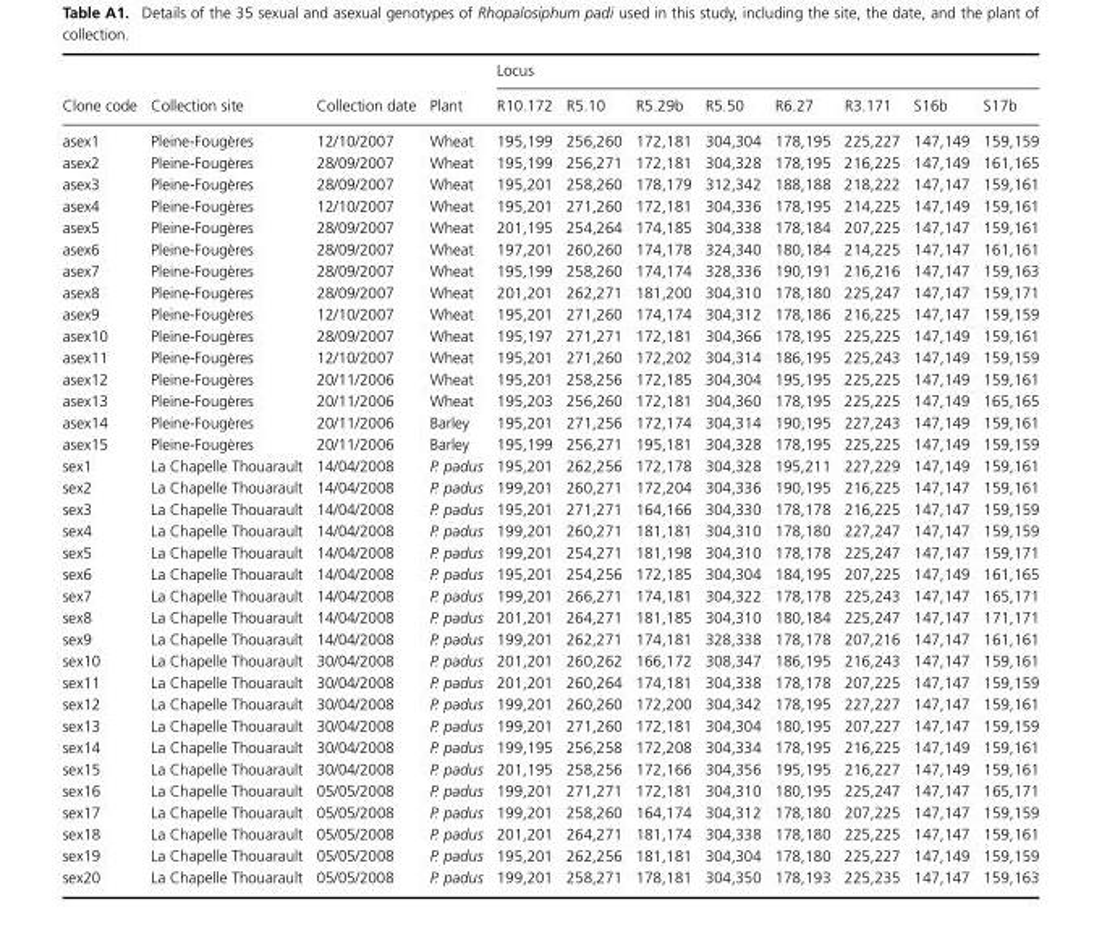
<table><thead><tr><td rowspan="2">Clone code</td><td rowspan="2">Collection site</td><td rowspan="2">Collection date</td><td rowspan="2">Plant</td><td colspan="8">Locus</td></tr><tr><td>R10.172</td><td>R5.10</td><td>R5.29b</td><td>R5.50</td><td>R6.27</td><td>R3.171</td><td>S16b</td><td>S17b</td></tr></thead><tbody><tr><td>asex1</td><td>Pleine-Foug`eres</td><td>12/10/2007</td><td>Wheat</td><td>195,199</td><td>256,260</td><td>172,181</td><td>304,304</td><td>178,195</td><td>225,227</td><td>147,149</td><td>159,159</td></tr><tr><td>asex2</td><td>Pleine-Foug`eres</td><td>28/09/2007</td><td>Wheat</td><td>195,199</td><td>256,271</td><td>172,181</td><td>304,328</td><td>178,195</td><td>216,225</td><td>147,149</td><td>161,165</td></tr><tr><td>asex3</td><td>Pleine-Foug`eres</td><td>28/09/2007</td><td>Wheat</td><td>195,201</td><td>258,260</td><td>178,179</td><td>312,342</td><td>188,188</td><td>218,222</td><td>147,147</td><td>159,161</td></tr><tr><td>asex4</td><td>Pleine-Foug`eres</td><td>12/10/2007</td><td>Wheat</td><td>195,201</td><td>271,260</td><td>172,181</td><td>304,336</td><td>178,195</td><td>214,225</td><td>147,149</td><td>159,161</td></tr><tr><td>asex5</td><td>Pleine-Foug`eres</td><td>28/09/2007</td><td>Wheat</td><td>201,195</td><td>254,264</td><td>174,185</td><td>304,338</td><td>178,184</td><td>207,225</td><td>147,147</td><td>159,161</td></tr><tr><td>asex6</td><td>Pleine-Foug`eres</td><td>28/09/2007</td><td>Wheat</td><td>197,201</td><td>260,260</td><td>174,178</td><td>324,340</td><td>180,184</td><td>214,225</td><td>147,147</td><td>161,161</td></tr><tr><td>asex7</td><td>Pleine-Foug`eres</td><td>28/09/2007</td><td>Wheat</td><td>195,199</td><td>258,260</td><td>174,174</td><td>328,336</td><td>190,191</td><td>216,216</td><td>147,147</td><td>159,163</td></tr><tr><td>asex8</td><td>Pleine-Foug`eres</td><td>28/09/2007</td><td>Wheat</td><td>201,201</td><td>262,271</td><td>181,200</td><td>304,310</td><td>178,180</td><td>225,247</td><td>147,147</td><td>159,171</td></tr><tr><td>asex9</td><td>Pleine-Foug`eres</td><td>12/10/2007</td><td>Wheat</td><td>195,201</td><td>271,260</td><td>174,174</td><td>304,312</td><td>178,186</td><td>216,225</td><td>147,147</td><td>159,159</td></tr><tr><td>asex10</td><td>Pleine-Foug`eres</td><td>28/09/2007</td><td>Wheat</td><td>195,197</td><td>271,271</td><td>172,181</td><td>304,366</td><td>178,195</td><td>225,225</td><td>147,149</td><td>159,161</td></tr><tr><td>asex11</td><td>Pleine-Foug`eres</td><td>12/10/2007</td><td>Wheat</td><td>195,201</td><td>271,260</td><td>172,202</td><td>304,314</td><td>186,195</td><td>225,243</td><td>147,149</td><td>159,159</td></tr><tr><td>asex12</td><td>Pleine-Foug`eres</td><td>20/11/2006</td><td>Wheat</td><td>195,201</td><td>258,256</td><td>172,185</td><td>304,304</td><td>195,195</td><td>225,225</td><td>147,149</td><td>159,161</td></tr><tr><td>asex13</td><td>Pleine-Foug`eres</td><td>20/11/2006</td><td>Wheat</td><td>195,203</td><td>256,260</td><td>172,181</td><td>304,360</td><td>178,195</td><td>225,225</td><td>147,149</td><td>165,165</td></tr><tr><td>asex14</td><td>Pleine-Foug`eres</td><td>20/11/2006</td><td>Barley</td><td>195,201</td><td>271,256</td><td>172,174</td><td>304,314</td><td>190,195</td><td>227,243</td><td>147,149</td><td>159,161</td></tr><tr><td>asex15</td><td>Pleine-Foug`eres</td><td>20/11/2006</td><td>Barley</td><td>195,199</td><td>256,271</td><td>195,181</td><td>304,328</td><td>178,195</td><td>225,225</td><td>147,149</td><td>159,159</td></tr><tr><td>sex1</td><td>La Chapelle Thouarault</td><td>14/04/2008</td><td>P. padus</td><td>195,201</td><td>262,256</td><td>172,178</td><td>304,328</td><td>195,211</td><td>227,229</td><td>147,149</td><td>159,161</td></tr><tr><td>sex2</td><td>La Chapelle Thouarault</td><td>14/04/2008</td><td>P. padus</td><td>199,201</td><td>260,271</td><td>172,204</td><td>304,336</td><td>190,195</td><td>216,225</td><td>147,147</td><td>159,161</td></tr><tr><td>sex3</td><td>La Chapelle Thouarault</td><td>14/04/2008</td><td>P. padus</td><td>195,201</td><td>271,271</td><td>164,166</td><td>304,330</td><td>178,178</td><td>216,225</td><td>147,147</td><td>159,159</td></tr><tr><td>sex4</td><td>La Chapelle Thouarault</td><td>14/04/2008</td><td>P. padus</td><td>199,201</td><td>260,271</td><td>181,181</td><td>304,310</td><td>178,180</td><td>227,247</td><td>147,147</td><td>159,159</td></tr><tr><td>sex5</td><td>La Chapelle Thouarault</td><td>14/04/2008</td><td>P. padus</td><td>199,201</td><td>254,271</td><td>181,198</td><td>304,310</td><td>178,178</td><td>225,247</td><td>147,147</td><td>159,171</td></tr><tr><td>sex6</td><td>La Chapelle Thouarault</td><td>14/04/2008</td><td>P. padus</td><td>195,201</td><td>254,256</td><td>172,185</td><td>304,304</td><td>184,195</td><td>207,225</td><td>147,149</td><td>161,165</td></tr><tr><td>sex7</td><td>La Chapelle Thouarault</td><td>14/04/2008</td><td>P. padus</td><td>199,201</td><td>266,271</td><td>174,181</td><td>304,322</td><td>178,178</td><td>225,243</td><td>147,147</td><td>165,171</td></tr><tr><td>sex8</td><td>La Chapelle Thouarault</td><td>14/04/2008</td><td>P. padus</td><td>201,201</td><td>264,271</td><td>181,185</td><td>304,310</td><td>180,184</td><td>225,247</td><td>147,147</td><td>171,171</td></tr><tr><td>sex9</td><td>La Chapelle Thouarault</td><td>14/04/2008</td><td>P. padus</td><td>199,201</td><td>262,271</td><td>174,181</td><td>328,338</td><td>178,178</td><td>207,216</td><td>147,147</td><td>161,161</td></tr><tr><td>sex10</td><td>La Chapelle Thouarault</td><td>30/04/2008</td><td>P. padus</td><td>201,201</td><td>260,262</td><td>166,172</td><td>308,347</td><td>186,195</td><td>216,243</td><td>147,147</td><td>159,161</td></tr><tr><td>sex11</td><td>La Chapelle Thouarault</td><td>30/04/2008</td><td>P. padus</td><td>201,201</td><td>260,264</td><td>174,181</td><td>304,338</td><td>178,178</td><td>207,225</td><td>147,147</td><td>159,159</td></tr><tr><td>sex12</td><td>La Chapelle Thouarault</td><td>30/04/2008</td><td>P. padus</td><td>199,201</td><td>260,260</td><td>172,200</td><td>304,342</td><td>178,195</td><td>227,227</td><td>147,147</td><td>159,161</td></tr><tr><td>sex13</td><td>La Chapelle Thouarault</td><td>30/04/2008</td><td>P. padus</td><td>199,201</td><td>271,260</td><td>172,181</td><td>304,304</td><td>180,195</td><td>207,227</td><td>147,147</td><td>159,159</td></tr><tr><td>sex14</td><td>La Chapelle Thouarault</td><td>30/04/2008</td><td>P. padus</td><td>199,195</td><td>256,258</td><td>172,208</td><td>304,334</td><td>178,195</td><td>216,225</td><td>147,149</td><td>159,161</td></tr><tr><td>sex15</td><td>La Chapelle Thouarault</td><td>30/04/2008</td><td>P. padus</td><td>201,195</td><td>258,256</td><td>172,166</td><td>304,356</td><td>195,195</td><td>216,227</td><td>147,149</td><td>159,161</td></tr><tr><td>sex16</td><td>La Chapelle Thouarault</td><td>05/05/2008</td><td>P. padus</td><td>199,201</td><td>271,271</td><td>172,181</td><td>304,310</td><td>180,195</td><td>225,247</td><td>147,147</td><td>165,171</td></tr><tr><td>sex17</td><td>La Chapelle Thouarault</td><td>05/05/2008</td><td>P. padus</td><td>199,201</td><td>258,260</td><td>164,174</td><td>304,312</td><td>178,180</td><td>207,225</td><td>147,147</td><td>159,159</td></tr><tr><td>sex18</td><td>La Chapelle Thouarault</td><td>05/05/2008</td><td>P. padus</td><td>201,201</td><td>264,271</td><td>181,174</td><td>304,338</td><td>178,180</td><td>225,225</td><td>147,147</td><td>159,161</td></tr><tr><td>sex19</td><td>La Chapelle Thouarault</td><td>05/05/2008</td><td>P. padus</td><td>195,201</td><td>262,256</td><td>181,181</td><td>304,304</td><td>178,180</td><td>225,227</td><td>147,149</td><td>159,159</td></tr><tr><td>sex20</td><td>La Chapelle Thouarault</td><td>05/05/2008</td><td>P. padus</td><td>199,201</td><td>258,271</td><td>178,181</td><td>304,350</td><td>178,193</td><td>225,235</td><td>147,147</td><td>159,163</td></tr></tbody></table>